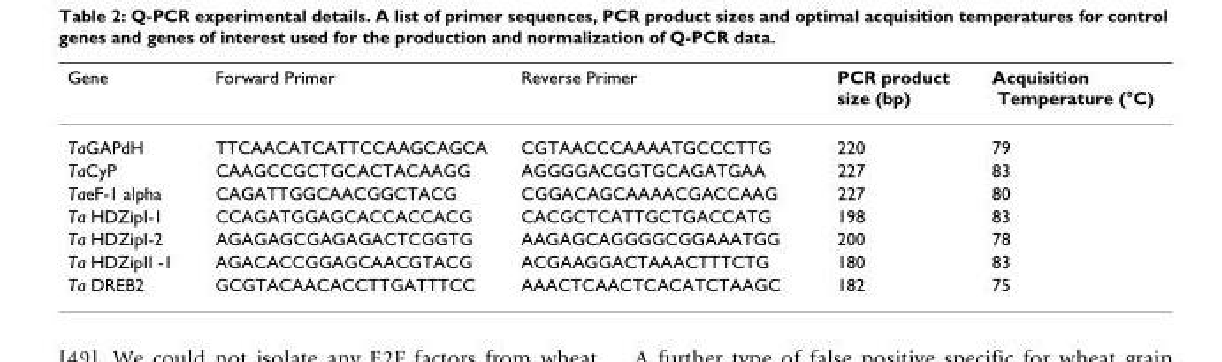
<table><thead><tr><td>Gene</td><td>Forward Primer</td><td>Reverse Primer</td><td>PCR product size (bp)</td><td>Acquisition Temperature (°C)</td></tr></thead><tbody><tr><td>TaGAPdH</td><td>TTCAACATCATTCCAAGCAGCA</td><td>CGTAACCCAAAATGCCCTTG</td><td>220</td><td>79</td></tr><tr><td>TaCyP</td><td>CAAGCCGCTGCACTACAAGG</td><td>AGGGGACGGTGCAGATGAA</td><td>227</td><td>83</td></tr><tr><td>TaeF-1 alpha</td><td>CAGATTGGCAACGGCTACG</td><td>CGGACAGCAAAACGACCAAG</td><td>227</td><td>80</td></tr><tr><td>Ta HDZipI-1</td><td>CCAGATGGAGCACCACCACG</td><td>CACGCTCATTGCTGACCATG</td><td>198</td><td>83</td></tr><tr><td>Ta HDZipI-2</td><td>AGAGAGCGAGAGACTCGGTG</td><td>AAGAGCAGGGGCGGAAATGG</td><td>200</td><td>78</td></tr><tr><td>Ta HDZipII -1</td><td>AGACACCGGAGCAACGTACG</td><td>ACGAAGGACTAAACTTTCTG</td><td>180</td><td>83</td></tr><tr><td>Ta DREB2</td><td>GCGTACAACACCTTGATTTCC</td><td>AAACTCAACTCACATCTAAGC</td><td>182</td><td>75</td></tr></tbody></table>